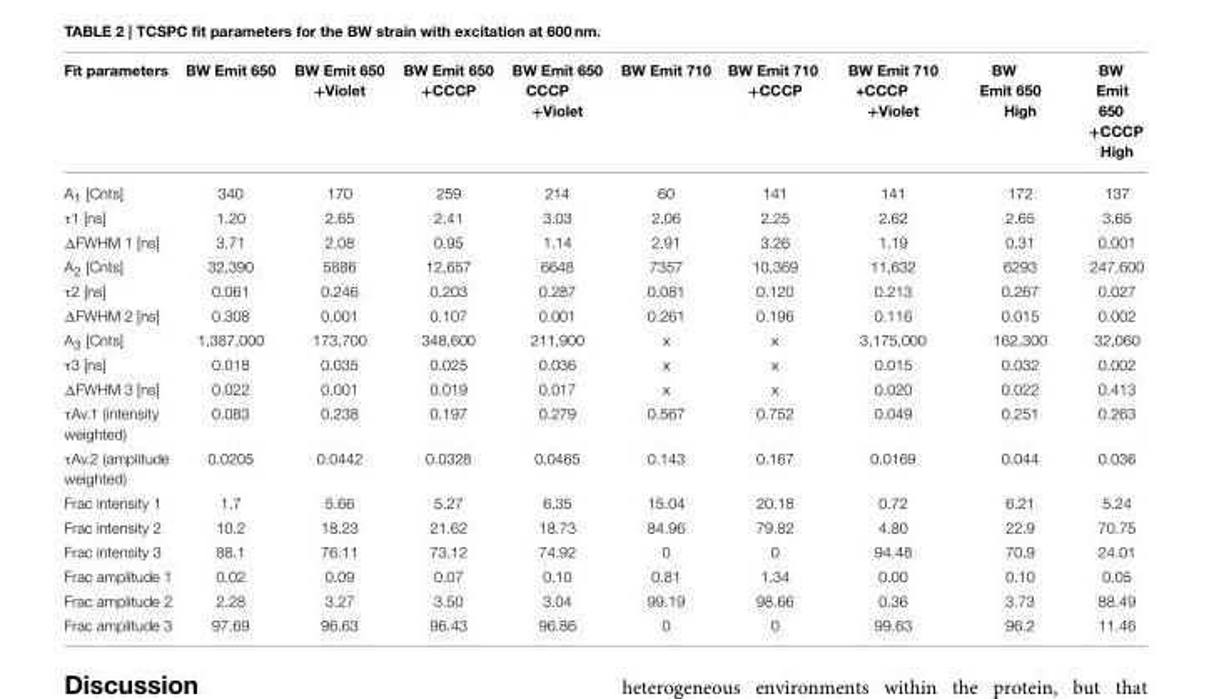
<table><thead><tr><td>Fit parameters</td><td>BW Emit 650</td><td>BW Emit 650 +Violet</td><td>BW Emit 650 +CCCP</td><td>BW Emit 650 CCCP +Violet</td><td>BW Emit 710</td><td>BW Emit 710 +CCCP</td><td>BW Emit 710 +CCCP +Violet</td><td>BW Emit 650 High</td><td>BW Emit 650 +CCCP High</td></tr></thead><tbody><tr><td>A<sub>1</sub> [Cnts]</td><td>340</td><td>170</td><td>259</td><td>214</td><td>60</td><td>141</td><td>141</td><td>172</td><td>137</td></tr><tr><td>τ1 [ns]</td><td>1.20</td><td>2.65</td><td>2.41</td><td>3.03</td><td>2.06</td><td>2.25</td><td>2.62</td><td>2.65</td><td>3.65</td></tr><tr><td>ΔFWHM 1 [ns]</td><td>3.71</td><td>2.08</td><td>0.95</td><td>1.14</td><td>2.91</td><td>3.26</td><td>1.19</td><td>0.31</td><td>0.001</td></tr><tr><td>A<sub>2</sub> [Cnts]</td><td>32,390</td><td>5886</td><td>12,657</td><td>6648</td><td>7357</td><td>10,369</td><td>11,632</td><td>6293</td><td>247,600</td></tr><tr><td>τ2 [ns]</td><td>0.061</td><td>0.246</td><td>0.203</td><td>0.287</td><td>0.081</td><td>0.120</td><td>0.213</td><td>0.267</td><td>0.027</td></tr><tr><td>ΔFWHM 2 [ns]</td><td>0.308</td><td>0.001</td><td>0.107</td><td>0.001</td><td>0.261</td><td>0.196</td><td>0.116</td><td>0.015</td><td>0.002</td></tr><tr><td>A<sub>3</sub> [Cnts]</td><td>1,387,000</td><td>173,700</td><td>348,600</td><td>211,900</td><td>x</td><td>x</td><td>3,175,000</td><td>162,300</td><td>32,060</td></tr><tr><td>τ3 [ns]</td><td>0.018</td><td>0.035</td><td>0.025</td><td>0.036</td><td>x</td><td>x</td><td>0.015</td><td>0.032</td><td>0.002</td></tr><tr><td>ΔFWHM 3 [ns]</td><td>0.022</td><td>0.001</td><td>0.019</td><td>0.017</td><td>x</td><td>x</td><td>0.020</td><td>0.022</td><td>0.413</td></tr><tr><td>τAv.1 (intensity weighted)</td><td>0.083</td><td>0.238</td><td>0.197</td><td>0.279</td><td>0.567</td><td>0.752</td><td>0.049</td><td>0.251</td><td>0.263</td></tr><tr><td>τAv.2 (amplitude weighted)</td><td>0.0205</td><td>0.0442</td><td>0.0328</td><td>0.0465</td><td>0.143</td><td>0.167</td><td>0.0169</td><td>0.044</td><td>0.036</td></tr><tr><td>Frac intensity 1</td><td>1.7</td><td>5.66</td><td>5.27</td><td>6.35</td><td>15.04</td><td>20.18</td><td>0.72</td><td>6.21</td><td>5.24</td></tr><tr><td>Frac intensity 2</td><td>10.2</td><td>18.23</td><td>21.62</td><td>18.73</td><td>84.96</td><td>79.82</td><td>4.80</td><td>22.9</td><td>70.75</td></tr><tr><td>Frac intensity 3</td><td>88.1</td><td>76.11</td><td>73.12</td><td>74.92</td><td>0</td><td>0</td><td>94.48</td><td>70.9</td><td>24.01</td></tr><tr><td>Frac amplitude 1</td><td>0.02</td><td>0.09</td><td>0.07</td><td>0.10</td><td>0.81</td><td>1.34</td><td>0.00</td><td>0.10</td><td>0.05</td></tr><tr><td>Frac amplitude 2</td><td>2.28</td><td>3.27</td><td>3.50</td><td>3.04</td><td>99.19</td><td>98.66</td><td>0.36</td><td>3.73</td><td>88.49</td></tr><tr><td>Frac amplitude 3</td><td>97.69</td><td>96.63</td><td>96.43</td><td>96.86</td><td>0</td><td>0</td><td>99.63</td><td>96.2</td><td>11.46</td></tr></tbody></table>